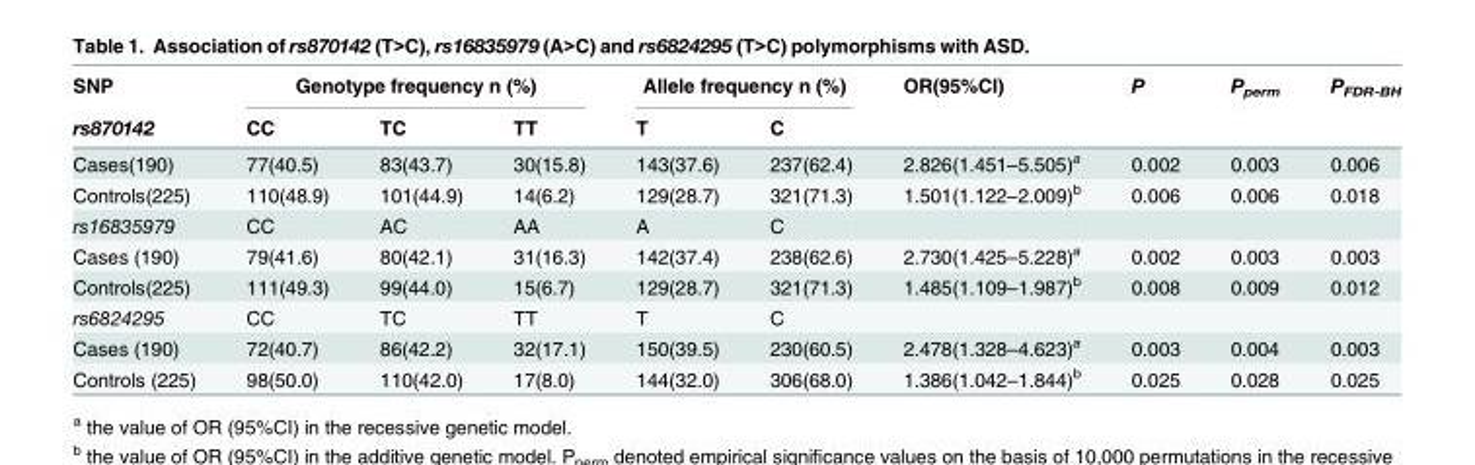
<table><thead><tr><td rowspan="2">SNP rs870142</td><td colspan="3">Genotype frequency n (%)</td><td colspan="2">Allele frequency n (%)</td><td rowspan="2">OR(95%CI)</td><td rowspan="2">P</td><td rowspan="2">P<sub>perm</sub></td><td rowspan="2">P<sub>FDR-BH</sub></td></tr><tr><td>CC</td><td>TC</td><td>TT</td><td>T</td><td>C</td></tr></thead><tbody><tr><td>Cases(190)</td><td>77(40.5)</td><td>83(43.7)</td><td>30(15.8)</td><td>143(37.6)</td><td>237(62.4)</td><td>2.826(1.451–5.505)<sup>a</sup></td><td>0.002</td><td>0.003</td><td>0.006</td></tr><tr><td>Controls(225)</td><td>110(48.9)</td><td>101(44.9)</td><td>14(6.2)</td><td>129(28.7)</td><td>321(71.3)</td><td>1.501(1.122–2.009)<sup>b</sup></td><td>0.006</td><td>0.006</td><td>0.018</td></tr><tr><td>rs16835979</td><td>CC</td><td>AC</td><td>AA</td><td>A</td><td>C</td><td></td><td></td><td></td><td></td></tr><tr><td>Cases (190)</td><td>79(41.6)</td><td>80(42.1)</td><td>31(16.3)</td><td>142(37.4)</td><td>238(62.6)</td><td>2.730(1.425–5.228)<sup>a</sup></td><td>0.002</td><td>0.003</td><td>0.003</td></tr><tr><td>Controls(225)</td><td>111(49.3)</td><td>99(44.0)</td><td>15(6.7)</td><td>129(28.7)</td><td>321(71.3)</td><td>1.485(1.109–1.987)<sup>b</sup></td><td>0.008</td><td>0.009</td><td>0.012</td></tr><tr><td>rs6824295</td><td>CC</td><td>TC</td><td>TT</td><td>T</td><td>C</td><td></td><td></td><td></td><td></td></tr><tr><td>Cases (190)</td><td>72(40.7)</td><td>86(42.2)</td><td>32(17.1)</td><td>150(39.5)</td><td>230(60.5)</td><td>2.478(1.328–4.623)<sup>a</sup></td><td>0.003</td><td>0.004</td><td>0.003</td></tr><tr><td>Controls (225)</td><td>98(50.0)</td><td>110(42.0)</td><td>17(8.0)</td><td>144(32.0)</td><td>306(68.0)</td><td>1.386(1.042–1.844)<sup>b</sup></td><td>0.025</td><td>0.028</td><td>0.025</td></tr></tbody></table>